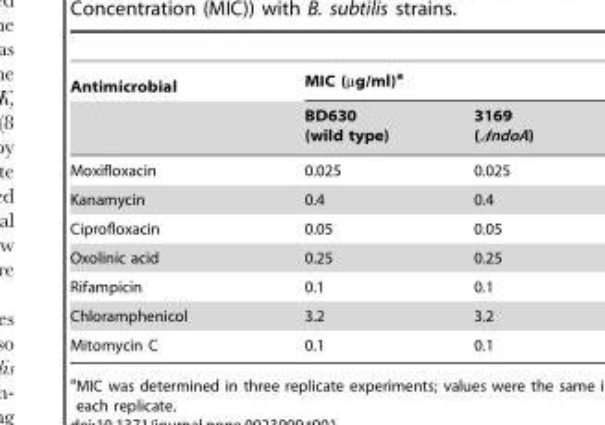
<table><thead><tr><td rowspan="2">Antimicrobial</td><td colspan="2">MIC (µg/ml)<sup>a</sup></td></tr><tr><td>BD630 (wild type)</td><td>3169 (ΔndoA)</td></tr></thead><tbody><tr><td>Moxifloxacin</td><td>0.025</td><td>0.025</td></tr><tr><td>Kanamycin</td><td>0.4</td><td>0.4</td></tr><tr><td>Ciprofloxacin</td><td>0.05</td><td>0.05</td></tr><tr><td>Oxolinic acid</td><td>0.25</td><td>0.25</td></tr><tr><td>Rifampicin</td><td>0.1</td><td>0.1</td></tr><tr><td>Chloramphenicol</td><td>3.2</td><td>3.2</td></tr><tr><td>Mitomycin C</td><td>0.1</td><td>0.1</td></tr></tbody></table>